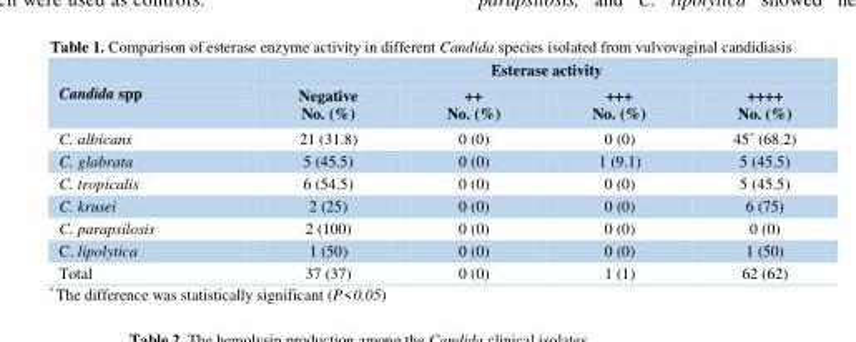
<table><thead><tr><td rowspan="2">Candida spp</td><td colspan="4">Esterase activity</td></tr><tr><td>Negative No. (%)</td><td>++ No. (%)</td><td>+++ No. (%)</td><td>++++ No. (%)</td></tr></thead><tbody><tr><td>C. albicans</td><td>21 (31.8)</td><td>0 (0)</td><td>0 (0)</td><td>45* (68.2)</td></tr><tr><td>C. glabrata</td><td>5 (45.5)</td><td>0 (0)</td><td>1 (9.1)</td><td>5 (45.5)</td></tr><tr><td>C. tropicalis</td><td>6 (54.5)</td><td>0 (0)</td><td>0 (0)</td><td>5 (45.5)</td></tr><tr><td>C. krusei</td><td>2 (25)</td><td>0 (0)</td><td>0 (0)</td><td>6 (75)</td></tr><tr><td>C. parapsilosis</td><td>2 (100)</td><td>0 (0)</td><td>0 (0)</td><td>0 (0)</td></tr><tr><td>C. lipolytica</td><td>1 (50)</td><td>0 (0)</td><td>0 (0)</td><td>1 (50)</td></tr><tr><td>Total</td><td>37 (37)</td><td>0 (0)</td><td>1 (1)</td><td>62 (62)</td></tr></tbody></table>